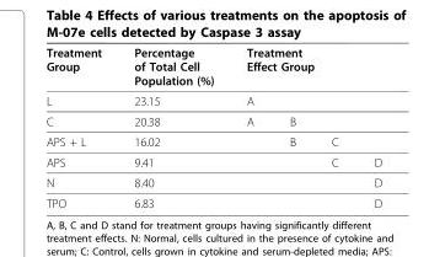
<table><thead><tr><td rowspan="2">Treatment Group L</td><td rowspan="2">Percentage of Total Cell Population (%) 23.15</td><td colspan="4">Treatment Effect Group</td></tr><tr><td>A</td><td></td><td></td><td></td></tr></thead><tbody><tr><td>C</td><td>20.38</td><td>A</td><td>B</td><td></td><td></td></tr><tr><td>APS + L</td><td>16.02</td><td></td><td>B</td><td>C</td><td></td></tr><tr><td>APS</td><td>9.41</td><td></td><td></td><td>C</td><td>D</td></tr><tr><td>N</td><td>8.40</td><td></td><td></td><td></td><td>D</td></tr><tr><td>TPO</td><td>6.83</td><td></td><td></td><td></td><td>D</td></tr></tbody></table>